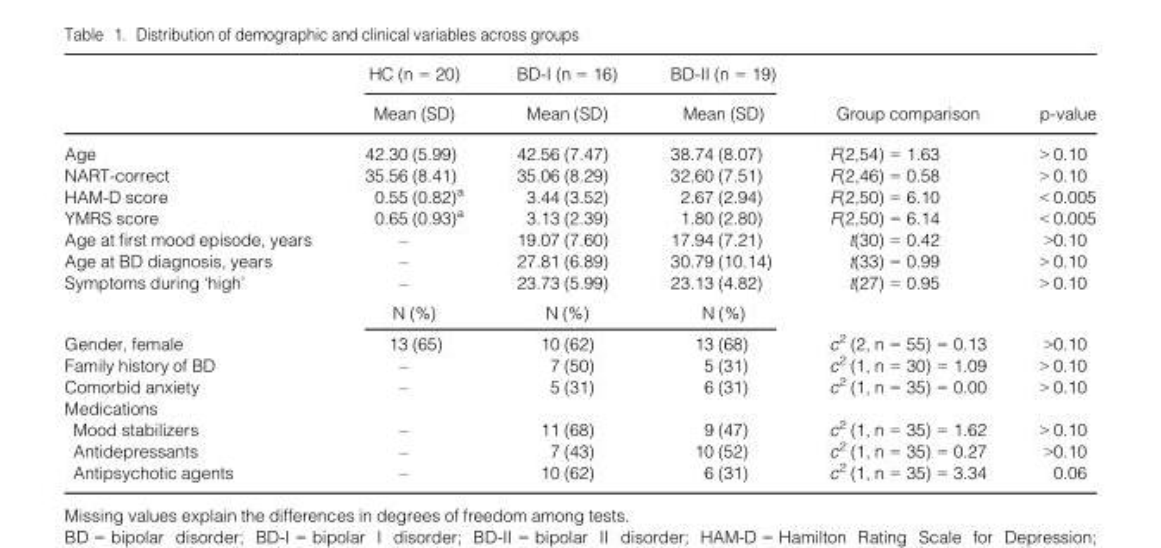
<table><thead><tr><td rowspan="2"></td><td rowspan="2">HC (n = 20) Mean (SD)</td><td rowspan="2">BD-I (n = 16) Mean (SD)</td><td rowspan="2">BD-II (n = 19) Mean (SD)</td><td rowspan="2">Group comparison</td><td rowspan="2">p-value</td></tr><tr></tr></thead><tbody><tr><td>Age</td><td>42.30 (5.99)</td><td>42.56 (7.47)</td><td>38.74 (8.07)</td><td>F(2,54) = 1.63</td><td>&gt; 0.10</td></tr><tr><td>NART-correct</td><td>35.56 (8.41)</td><td>35.06 (8.29)</td><td>32.60 (7.51)</td><td>F(2,46) = 0.58</td><td>&gt; 0.10</td></tr><tr><td>HAM-D score</td><td>0.55 (0.82)<sup>a</sup></td><td>3.44 (3.52)</td><td>2.67 (2.94)</td><td>F(2,50) = 6.10</td><td>&lt; 0.005</td></tr><tr><td>YMRS score</td><td>0.65 (0.93)<sup>a</sup></td><td>3.13 (2.39)</td><td>1.80 (2.80)</td><td>F(2,50) = 6.14</td><td>&lt; 0.005</td></tr><tr><td>Age at first mood episode, years</td><td>–</td><td>19.07 (7.60)</td><td>17.94 (7.21)</td><td>t(30) = 0.42</td><td>&gt;0.10</td></tr><tr><td>Age at BD diagnosis, years</td><td>–</td><td>27.81 (6.89)</td><td>30.79 (10.14)</td><td>t(33) = 0.99</td><td>&gt; 0.10</td></tr><tr><td rowspan="2">Symptoms during ‘high’</td><td>–</td><td>23.73 (5.99)</td><td>23.13 (4.82)</td><td>t(27) = 0.95</td><td>&gt; 0.10</td></tr><tr><td>N (%)</td><td>N (%)</td><td>N (%)</td><td></td><td></td></tr><tr><td>Gender, female</td><td>13 (65)</td><td>10 (62)</td><td>13 (68)</td><td>c<sup>2</sup> (2, n = 55) = 0.13</td><td>&gt;0.10</td></tr><tr><td>Family history of BD</td><td>–</td><td>7 (50)</td><td>5 (31)</td><td>c<sup>2</sup> (1, n = 30) = 1.09</td><td>&gt; 0.10</td></tr><tr><td>Comorbid anxiety</td><td>–</td><td>5 (31)</td><td>6 (31)</td><td>c<sup>2</sup> (1, n = 35) = 0.00</td><td>&gt; 0.10</td></tr><tr><td colspan="6">Medications</td></tr><tr><td>Mood stabilizers</td><td>–</td><td>11 (68)</td><td>9 (47)</td><td>c<sup>2</sup> (1, n = 35) = 1.62</td><td>&gt; 0.10</td></tr><tr><td>Antidepressants</td><td>–</td><td>7 (43)</td><td>10 (52)</td><td>c<sup>2</sup> (1, n = 35) = 0.27</td><td>&gt;0.10</td></tr><tr><td>Antipsychotic agents</td><td>–</td><td>10 (62)</td><td>6 (31)</td><td>c<sup>2</sup> (1, n = 35) = 3.34</td><td>0.06</td></tr></tbody></table>